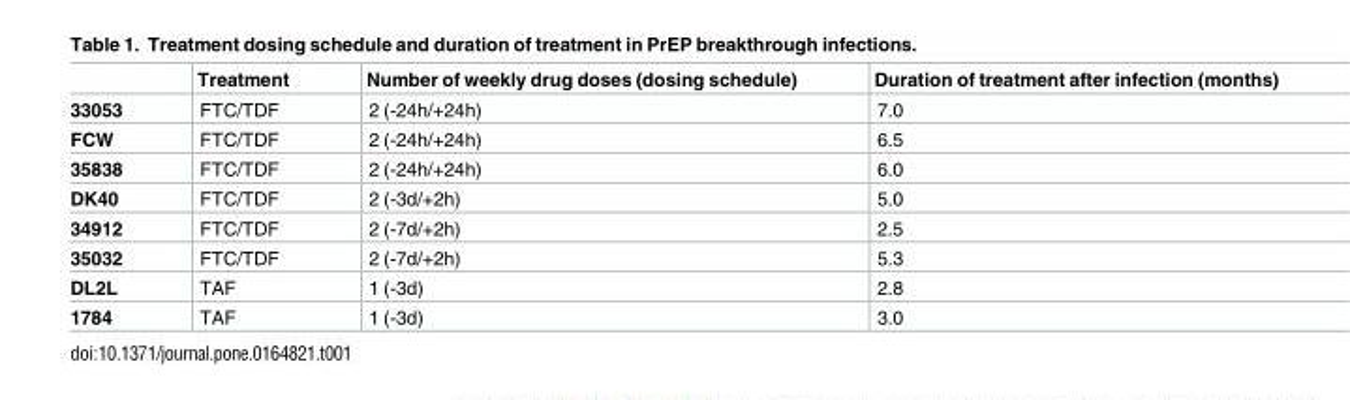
<table><thead><tr><td></td><td>Treatment</td><td>Number of weekly drug doses (dosing schedule)</td><td>Duration of treatment after infection (months)</td></tr></thead><tbody><tr><td>33053</td><td>FTC/TDF</td><td>2 (-24h/+24h)</td><td>7.0</td></tr><tr><td>FCW</td><td>FTC/TDF</td><td>2 (-24h/+24h)</td><td>6.5</td></tr><tr><td>35838</td><td>FTC/TDF</td><td>2 (-24h/+24h)</td><td>6.0</td></tr><tr><td>DK40</td><td>FTC/TDF</td><td>2 (-3d/+2h)</td><td>5.0</td></tr><tr><td>34912</td><td>FTC/TDF</td><td>2 (-7d/+2h)</td><td>2.5</td></tr><tr><td>35032</td><td>FTC/TDF</td><td>2 (-7d/+2h)</td><td>5.3</td></tr><tr><td>DL2L</td><td>TAF</td><td>1 (-3d)</td><td>2.8</td></tr><tr><td>1784</td><td>TAF</td><td>1 (-3d)</td><td>3.0</td></tr></tbody></table>